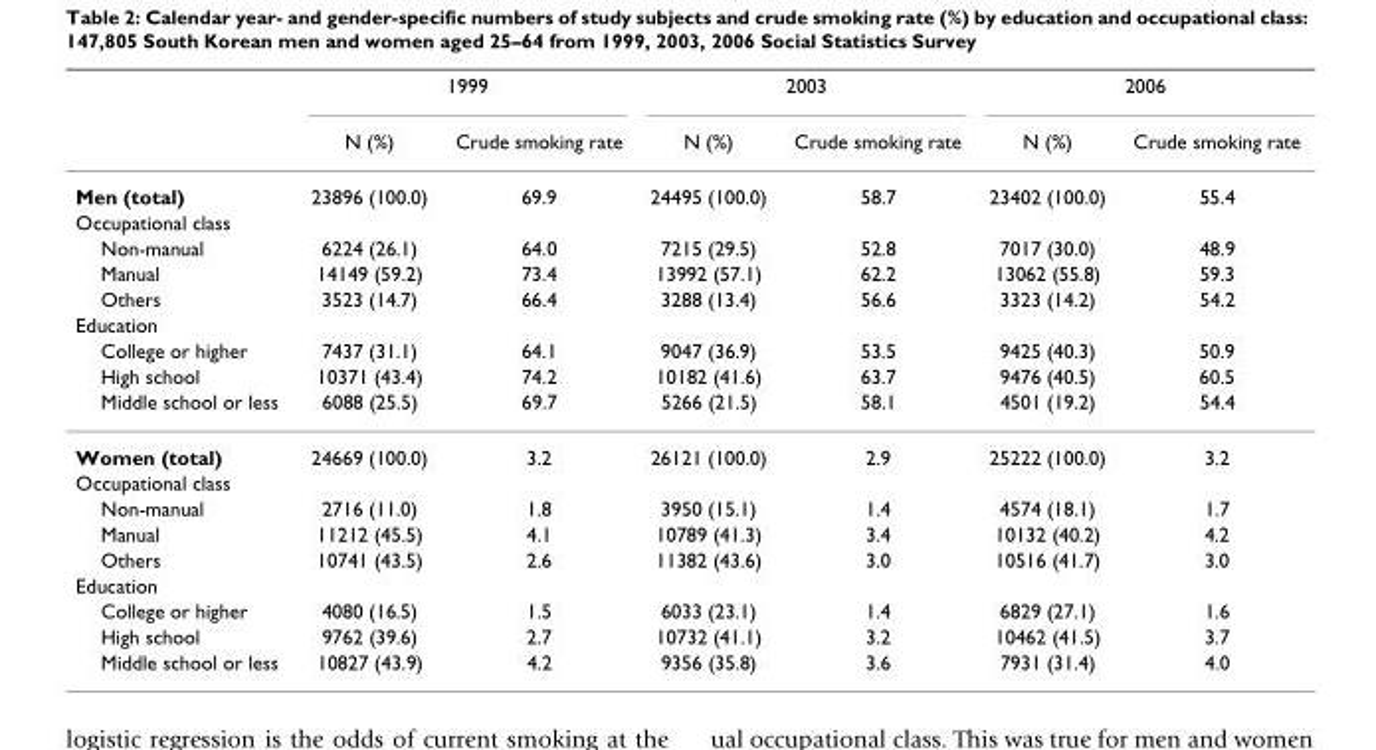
<table><thead><tr><td rowspan="2"></td><td colspan="2">1999</td><td colspan="2">2003</td><td colspan="2">2006</td></tr><tr><td>N (%)</td><td>Crude smoking rate</td><td>N (%)</td><td>Crude smoking rate</td><td>N (%)</td><td>Crude smoking rate</td></tr></thead><tbody><tr><td>Men (total)</td><td>23896 (100.0)</td><td>69.9</td><td>24495 (100.0)</td><td>58.7</td><td>23402 (100.0)</td><td>55.4</td></tr><tr><td colspan="7">Occupational class</td></tr><tr><td>Non-manual</td><td>6224 (26.1)</td><td>64.0</td><td>7215 (29.5)</td><td>52.8</td><td>7017 (30.0)</td><td>48.9</td></tr><tr><td>Manual</td><td>14149 (59.2)</td><td>73.4</td><td>13992 (57.1)</td><td>62.2</td><td>13062 (55.8)</td><td>59.3</td></tr><tr><td>Others</td><td>3523 (14.7)</td><td>66.4</td><td>3288 (13.4)</td><td>56.6</td><td>3323 (14.2)</td><td>54.2</td></tr><tr><td colspan="7">Education</td></tr><tr><td>College or higher</td><td>7437 (31.1)</td><td>64.1</td><td>9047 (36.9)</td><td>53.5</td><td>9425 (40.3)</td><td>50.9</td></tr><tr><td>High school</td><td>10371 (43.4)</td><td>74.2</td><td>10182 (41.6)</td><td>63.7</td><td>9476 (40.5)</td><td>60.5</td></tr><tr><td>Middle school or less</td><td>6088 (25.5)</td><td>69.7</td><td>5266 (21.5)</td><td>58.1</td><td>4501 (19.2)</td><td>54.4</td></tr><tr><td>Women (total)</td><td>24669 (100.0)</td><td>3.2</td><td>26121 (100.0)</td><td>2.9</td><td>25222 (100.0)</td><td>3.2</td></tr><tr><td colspan="7">Occupational class</td></tr><tr><td>Non-manual</td><td>2716 (11.0)</td><td>1.8</td><td>3950 (15.1)</td><td>1.4</td><td>4574 (18.1)</td><td>1.7</td></tr><tr><td>Manual</td><td>11212 (45.5)</td><td>4.1</td><td>10789 (41.3)</td><td>3.4</td><td>10132 (40.2)</td><td>4.2</td></tr><tr><td>Others</td><td>10741 (43.5)</td><td>2.6</td><td>11382 (43.6)</td><td>3.0</td><td>10516 (41.7)</td><td>3.0</td></tr><tr><td colspan="7">Education</td></tr><tr><td>College or higher</td><td>4080 (16.5)</td><td>1.5</td><td>6033 (23.1)</td><td>1.4</td><td>6829 (27.1)</td><td>1.6</td></tr><tr><td>High school</td><td>9762 (39.6)</td><td>2.7</td><td>10732 (41.1)</td><td>3.2</td><td>10462 (41.5)</td><td>3.7</td></tr><tr><td>Middle school or less</td><td>10827 (43.9)</td><td>4.2</td><td>9356 (35.8)</td><td>3.6</td><td>7931 (31.4)</td><td>4.0</td></tr></tbody></table>